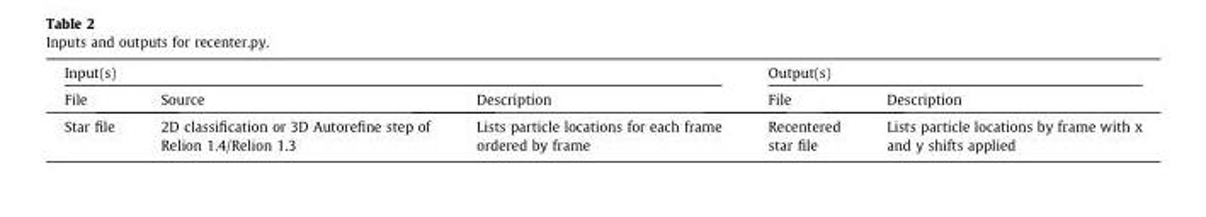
<table><thead><tr><td colspan="3">Input(s)</td><td colspan="2">Output(s)</td></tr><tr><td>File</td><td>Source</td><td>Description</td><td>File</td><td>Description</td></tr></thead><tbody><tr><td>Star file</td><td>2D classification or 3D Autorefine step of Relion 1.4/Relion 1.3</td><td>Lists particle locations for each frame ordered by frame</td><td>Recentered star file</td><td>Lists particle locations by frame with x and y shifts applied</td></tr></tbody></table>